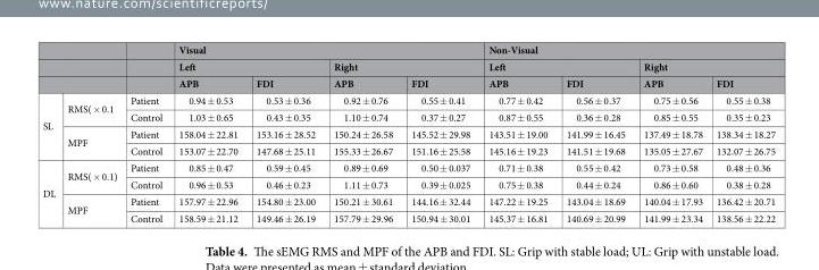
<table><thead><tr><td rowspan="3"></td><td rowspan="3"></td><td rowspan="3"></td><td colspan="4">Visual</td><td colspan="4">Non-Visual</td></tr><tr><td colspan="2">Left</td><td colspan="2">Right</td><td colspan="2">Left</td><td colspan="2">Right</td></tr><tr><td>APB</td><td>FDI</td><td>APB</td><td>FDI</td><td>APB</td><td>FDI</td><td>APB</td><td>FDI</td></tr></thead><tbody><tr><td rowspan="4">SL</td><td rowspan="2">RMS( × 0.1</td><td>Patient</td><td>0.94 ± 0.53</td><td>0.53 ± 0.36</td><td>0.92 ± 0.76</td><td>0.55 ± 0.41</td><td>0.77 ± 0.42</td><td>0.56 ± 0.37</td><td>0.75 ± 0.56</td><td>0.55 ± 0.38</td></tr><tr><td>Control</td><td>1.03 ± 0.65</td><td>0.43 ± 0.35</td><td>1.10 ± 0.74</td><td>0.37 ± 0.27</td><td>0.87 ± 0.55</td><td>0.36 ± 0.28</td><td>0.85 ± 0.55</td><td>0.35 ± 0.23</td></tr><tr><td rowspan="2">MPF</td><td>Patient</td><td>158.04 ± 22.81</td><td>153.16 ± 28.52</td><td>150.24 ± 26.58</td><td>145.52 ± 29.98</td><td>143.51 ± 19.00</td><td>141.99 ± 16.45</td><td>137.49 ± 18.78</td><td>138.34 ± 18.27</td></tr><tr><td>Control</td><td>153.07 ± 22.70</td><td>147.68 ± 25.11</td><td>155.33 ± 26.67</td><td>151.16 ± 25.58</td><td>145.16 ± 19.23</td><td>141.51 ± 19.68</td><td>135.05 ± 27.67</td><td>132.07 ± 26.75</td></tr><tr><td rowspan="4">DL</td><td rowspan="2">RMS( × 0.1)</td><td>Patient</td><td>0.85 ± 0.47</td><td>0.59 ± 0.45</td><td>0.89 ± 0.69</td><td>0.50 ± 0.037</td><td>0.71 ± 0.38</td><td>0.55 ± 0.42</td><td>0.73 ± 0.58</td><td>0.48 ± 0.36</td></tr><tr><td>Control</td><td>0.96 ± 0.53</td><td>0.46 ± 0.23</td><td>1.11 ± 0.73</td><td>0.39 ± 0.025</td><td>0.75 ± 0.38</td><td>0.44 ± 0.24</td><td>0.86 ± 0.60</td><td>0.38 ± 0.28</td></tr><tr><td rowspan="2">MPF</td><td>Patient</td><td>157.97 ± 22.96</td><td>154.80 ± 23.00</td><td>150.21 ± 30.61</td><td>144.16 ± 32.44</td><td>147.22 ± 19.25</td><td>143.04 ± 18.69</td><td>140.04 ± 17.93</td><td>136.42 ± 20.71</td></tr><tr><td>Control</td><td>158.59 ± 21.12</td><td>149.46 ± 26.19</td><td>157.79 ± 29.96</td><td>150.94 ± 30.01</td><td>145.37 ± 16.81</td><td>140.69 ± 20.99</td><td>141.99 ± 23.34</td><td>138.56 ± 22.22</td></tr></tbody></table>